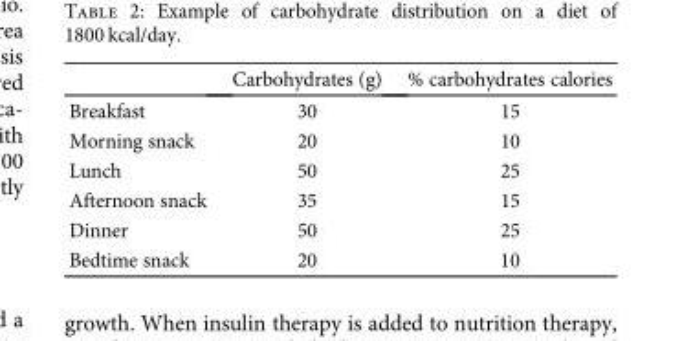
<table><thead><tr><td></td><td>Carbohydrates (g)</td><td>% carbohydrates calories</td></tr></thead><tbody><tr><td>Breakfast</td><td>30</td><td>15</td></tr><tr><td>Morning snack</td><td>20</td><td>10</td></tr><tr><td>Lunch</td><td>50</td><td>25</td></tr><tr><td>Afternoon snack</td><td>35</td><td>15</td></tr><tr><td>Dinner</td><td>50</td><td>25</td></tr><tr><td>Bedtime snack</td><td>20</td><td>10</td></tr></tbody></table>